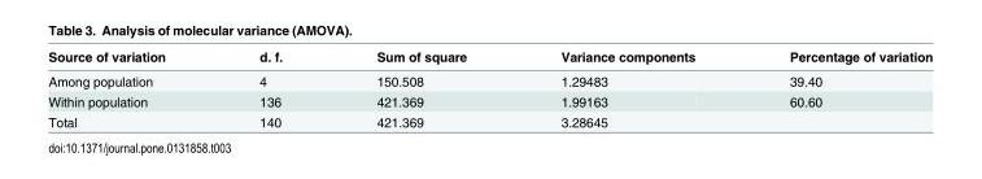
<table><thead><tr><td>Source of variation</td><td>d. f.</td><td>Sum of square</td><td>Variance components</td><td>Percentage of variation</td></tr></thead><tbody><tr><td>Among population</td><td>4</td><td>150.508</td><td>1.29483</td><td>39.40</td></tr><tr><td>Within population</td><td>136</td><td>421.369</td><td>1.99163</td><td>60.60</td></tr><tr><td>Total</td><td>140</td><td>421.369</td><td>3.28645</td><td></td></tr></tbody></table>